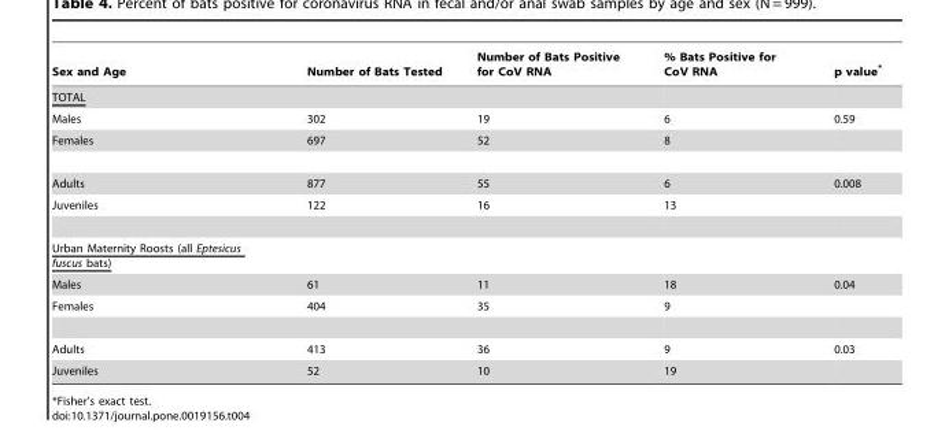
<table><thead><tr><td>Sex and Age</td><td>Number of Bats Tested</td><td>Number of Bats Positive for CoV RNA</td><td>% Bats Positive for CoV RNA</td><td>p value*</td></tr></thead><tbody><tr><td colspan="5">TOTAL</td></tr><tr><td>Males</td><td>302</td><td>19</td><td>6</td><td>0.59</td></tr><tr><td>Females</td><td>697</td><td>52</td><td>8</td><td></td></tr><tr><td>Adults</td><td>877</td><td>55</td><td>6</td><td>0.008</td></tr><tr><td>Juveniles</td><td>122</td><td>16</td><td>13</td><td></td></tr><tr><td colspan="5">Urban Maternity Roosts (all Eptesicus fuscus bats)</td></tr><tr><td>Males</td><td>61</td><td>11</td><td>18</td><td>0.04</td></tr><tr><td>Females</td><td>404</td><td>35</td><td>9</td><td></td></tr><tr><td>Adults</td><td>413</td><td>36</td><td>9</td><td>0.03</td></tr><tr><td>Juveniles</td><td>52</td><td>10</td><td>19</td><td></td></tr></tbody></table>